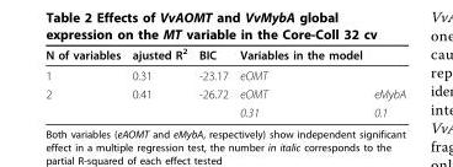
<table><thead><tr><td>N of variables</td><td>ajusted R<sup>2</sup></td><td>BIC</td><td>Variables in the model</td><td></td></tr></thead><tbody><tr><td>1</td><td>0.31</td><td>-23.17</td><td>eOMT</td><td></td></tr><tr><td rowspan="2">2</td><td>0.41</td><td>-26.72</td><td>eOMT</td><td>eMybA</td></tr><tr><td></td><td></td><td>0.31</td><td>0.1</td></tr></tbody></table>